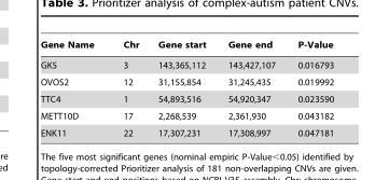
<table><thead><tr><td>Gene Name</td><td>Chr</td><td>Gene start</td><td>Gene end</td><td>P-Value</td></tr></thead><tbody><tr><td>GK5</td><td>3</td><td>143,365,112</td><td>143,427,107</td><td>0.016793</td></tr><tr><td>OVOS2</td><td>12</td><td>31,155,854</td><td>31,245,435</td><td>0.019992</td></tr><tr><td>TTC4</td><td>1</td><td>54,893,516</td><td>54,920,347</td><td>0.023590</td></tr><tr><td>METT10D</td><td>17</td><td>2,268,539</td><td>2,361,930</td><td>0.043182</td></tr><tr><td>ENK11</td><td>22</td><td>17,307,231</td><td>17,308,997</td><td>0.047181</td></tr></tbody></table>